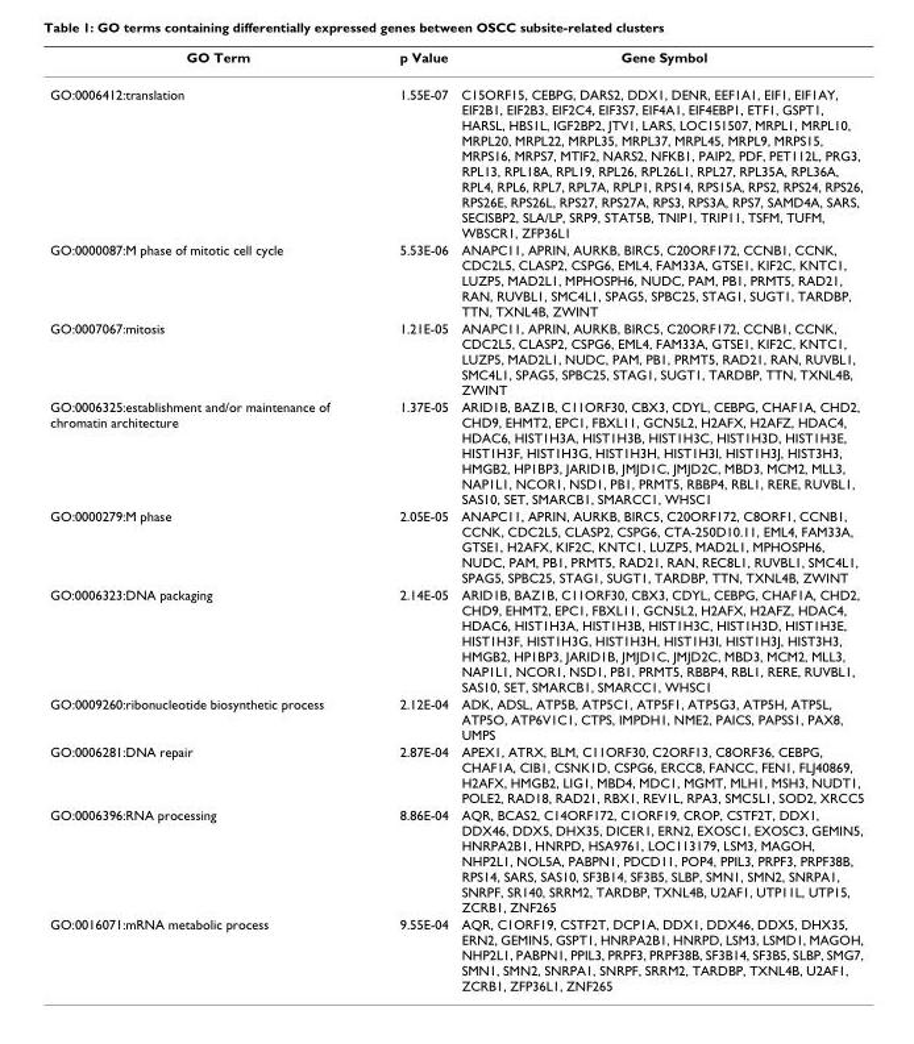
<table><thead><tr><td>GO Term</td><td>p Value</td><td>Gene Symbol</td></tr></thead><tbody><tr><td>GO:0006412:translation</td><td>1.55E-07</td><td>C15ORF15, CEBPG, DARS2, DDX1, DENR, EEF1A1, EIF1, EIF1AY, EIF2B1, EIF2B3, EIF2C4, EIF3S7, EIF4A1, EIF4EBP1, ETF1, GSPT1, HARSL, HBS1L, IGF2BP2, JTV1, LARS, LOC151507, MRPL1, MRPL10, MRPL20, MRPL22, MRPL35, MRPL37, MRPL45, MRPL9, MRPS15, MRPS16, MRPS7, MTIF2, NARS2, NFKB1, PAIP2, PDF, PET112L, PRG3, RPL13, RPL18A, RPL19, RPL26, RPL26L1, RPL27, RPL35A, RPL36A, RPL4, RPL6, RPL7, RPL7A, RPLP1, RPS14, RPS15A, RPS2, RPS24, RPS26, RPS26E, RPS26L, RPS27, RPS27A, RPS3, RPS3A, RPS7, SAMD4A, SARS, SECISBP2, SLA/LP, SRP9, STAT5B, TNIP1, TRIP11, TSFM, TUFM, WBSCR1, ZFP36L1</td></tr><tr><td>GO:0000087:M phase of mitotic cell cycle</td><td>5.53E-06</td><td>ANAPC11, APRIN, AURKB, BIRC5, C20ORF172, CCNB1, CCNK, CDC2L5, CLASP2, CSPG6, EML4, FAM33A, GTSE1, KIF2C, KNTC1, LUZP5, MAD2L1, MPHOSPH6, NUDC, PAM, PB1, PRMT5, RAD21, RAN, RUVBL1, SMC4L1, SPAG5, SPBC25, STAG1, SUGT1, TARDBP, TTN, TXNL4B, ZWINT</td></tr><tr><td>GO:0007067:mitosis</td><td>1.21E-05</td><td>ANAPC11, APRIN, AURKB, BIRC5, C20ORF172, CCNB1, CCNK, CDC2L5, CLASP2, CSPG6, EML4, FAM33A, GTSE1, KIF2C, KNTC1, LUZP5, MAD2L1, NUDC, PAM, PB1, PRMT5, RAD21, RAN, RUVBL1, SMC4L1, SPAG5, SPBC25, STAG1, SUGT1, TARDBP, TTN, TXNL4B, ZWINT</td></tr><tr><td>GO:0006325:establishment and/or maintenance of chromatin architecture</td><td>1.37E-05</td><td>ARID1B, BAZ1B, C11ORF30, CBX3, CDYL, CEBPG, CHAF1A, CHD2, CHD9, EHMT2, EPC1, FBXL11, GCN5L2, H2AFX, H2AFZ, HDAC4, HDAC6, HIST1H3A, HIST1H3B, HIST1H3C, HIST1H3D, HIST1H3E, HIST1H3F, HIST1H3G, HIST1H3H, HIST1H3I, HIST1H3J, HIST3H3, HMGB2, HP1BP3, JARID1B, JMJD1C, JMJD2C, MBD3, MCM2, MLL3, NAP1L1, NCOR1, NSD1, PB1, PRMT5, RBBP4, RBL1, RERE, RUVBL1, SAS10, SET, SMARCB1, SMARCC1, WHSC1</td></tr><tr><td>GO:0000279:M phase</td><td>2.05E-05</td><td>ANAPC11, APRIN, AURKB, BIRC5, C20ORF172, C8ORF1, CCNB1, CCNK, CDC2L5, CLASP2, CSPG6, CTA-250D10.11, EML4, FAM33A, GTSE1, H2AFX, KIF2C, KNTC1, LUZP5, MAD2L1, MPHOSPH6, NUDC, PAM, PB1, PRMT5, RAD21, RAN, REC8L1, RUVBL1, SMC4L1, SPAG5, SPBC25, STAG1, SUGT1, TARDBP, TTN, TXNL4B, ZWINT</td></tr><tr><td>GO:0006323:DNA packaging</td><td>2.14E-05</td><td>ARID1B, BAZ1B, C11ORF30, CBX3, CDYL, CEBPG, CHAF1A, CHD2, CHD9, EHMT2, EPC1, FBXL11, GCN5L2, H2AFX, H2AFZ, HDAC4, HDAC6, HIST1H3A, HIST1H3B, HIST1H3C, HIST1H3D, HIST1H3E, HIST1H3F, HIST1H3G, HIST1H3H, HIST1H3I, HIST1H3J, HIST3H3, HMGB2, HP1BP3, JARID1B, JMJD1C, JMJD2C, MBD3, MCM2, MLL3, NAP1L1, NCOR1, NSD1, PB1, PRMT5, RBBP4, RBL1, RERE, RUVBL1, SAS10, SET, SMARCB1, SMARCC1, WHSC1</td></tr><tr><td>GO:0009260:ribonucleotide biosynthetic process</td><td>2.12E-04</td><td>ADK, ADSL, ATP5B, ATP5C1, ATP5F1, ATP5G3, ATP5H, ATP5L, ATP5O, ATP6V1C1, CTPS, IMPDH1, NME2, PAICS, PAPSS1, PAX8, UMPS</td></tr><tr><td>GO:0006281:DNA repair</td><td>2.87E-04</td><td>APEX1, ATRX, BLM, C11ORF30, C2ORF13, C8ORF36, CEBPG, CHAF1A, CIB1, CSNK1D, CSPG6, ERCC8, FANCC, FEN1, FLJ40869, H2AFX, HMGB2, LIG1, MBD4, MDC1, MGMT, MLH1, MSH3, NUDT1, POLE2, RAD18, RAD21, RBX1, REV1L, RPA3, SMC5L1, SOD2, XRCC5</td></tr><tr><td>GO:0006396:RNA processing</td><td>8.86E-04</td><td>AQR, BCAS2, C14ORF172, C1ORF19, CROP, CSTF2T, DDX1, DDX46, DDX5, DHX35, DICER1, ERN2, EXOSC1, EXOSC3, GEMIN5, HNRPA2B1, HNRPD, HSA9761, LOC113179, LSM3, MAGOH, NHP2L1, NOL5A, PABPN1, PDCD11, POP4, PPIL3, PRPF3, PRPF38B, RPS14, SARS, SAS10, SF3B14, SF3B5, SLBP, SMN1, SMN2, SNRPA1, SNRPF, SR140, SRRM2, TARDBP, TXNL4B, U2AF1, UTP11L, UTP15, ZCRB1, ZNF265</td></tr><tr><td>GO:0016071:mRNA metabolic process</td><td>9.55E-04</td><td>AQR, C1ORF19, CSTF2T, DCP1A, DDX1, DDX46, DDX5, DHX35, ERN2, GEMIN5, GSPT1, HNRPA2B1, HNRPD, LSM3, LSMD1, MAGOH, NHP2L1, PABPN1, PPIL3, PRPF3, PRPF38B, SF3B14, SF3B5, SLBP, SMG7, SMN1, SMN2, SNRPA1, SNRPF, SRRM2, TARDBP, TXNL4B, U2AF1, ZCRB1, ZFP36L1, ZNF265</td></tr></tbody></table>